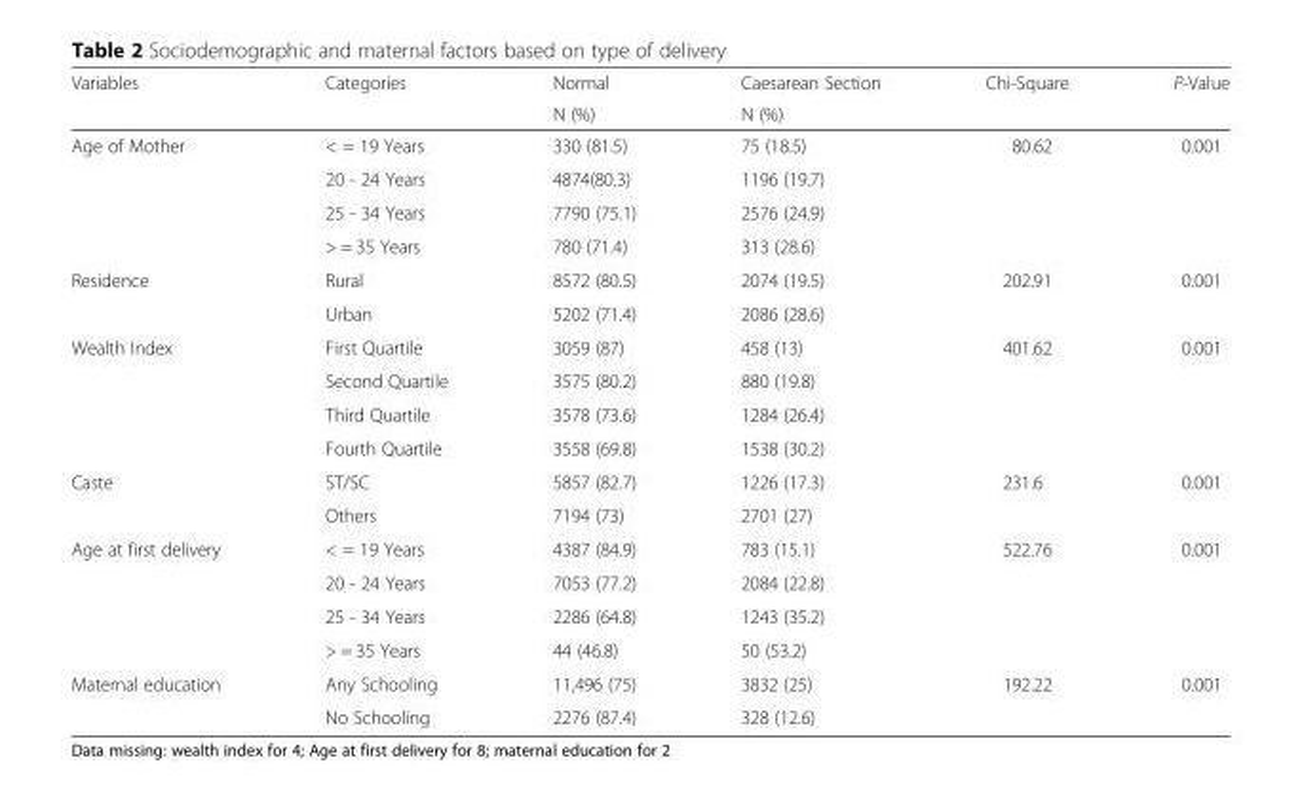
<table><thead><tr><td rowspan="2">Variables</td><td rowspan="2">Categories</td><td rowspan="2">Normal N (%)</td><td rowspan="2">Caesarean Section N (%)</td><td rowspan="2">Chi-Square</td><td rowspan="2">P-Value</td></tr><tr></tr></thead><tbody><tr><td rowspan="4">Age of Mother</td><td>&lt; = 19 Years</td><td>330 (81.5)</td><td>75 (18.5)</td><td rowspan="4">80.62</td><td rowspan="4">0.001</td></tr><tr><td>20 - 24 Years</td><td>4874(80.3)</td><td>1196 (19.7)</td></tr><tr><td>25 - 34 Years</td><td>7790 (75.1)</td><td>2576 (24.9)</td></tr><tr><td>&gt; = 35 Years</td><td>780 (71.4)</td><td>313 (28.6)</td></tr><tr><td rowspan="2">Residence</td><td>Rural</td><td>8572 (80.5)</td><td>2074 (19.5)</td><td rowspan="2">202.91</td><td rowspan="2">0.001</td></tr><tr><td>Urban</td><td>5202 (71.4)</td><td>2086 (28.6)</td></tr><tr><td rowspan="4">Wealth Index</td><td>First Quartile</td><td>3059 (87)</td><td>458 (13)</td><td rowspan="4">401.62</td><td rowspan="4">0.001</td></tr><tr><td>Second Quartile</td><td>3575 (80.2)</td><td>880 (19.8)</td></tr><tr><td>Third Quartile</td><td>3578 (73.6)</td><td>1284 (26.4)</td></tr><tr><td>Fourth Quartile</td><td>3558 (69.8)</td><td>1538 (30.2)</td></tr><tr><td rowspan="2">Caste</td><td>ST/SC</td><td>5857 (82.7)</td><td>1226 (17.3)</td><td rowspan="2">231.6</td><td rowspan="2">0.001</td></tr><tr><td>Others</td><td>7194 (73)</td><td>2701 (27)</td></tr><tr><td rowspan="4">Age at first delivery</td><td>&lt; = 19 Years</td><td>4387 (84.9)</td><td>783 (15.1)</td><td rowspan="4">522.76</td><td rowspan="4">0.001</td></tr><tr><td>20 - 24 Years</td><td>7053 (77.2)</td><td>2084 (22.8)</td></tr><tr><td>25 - 34 Years</td><td>2286 (64.8)</td><td>1243 (35.2)</td></tr><tr><td>&gt; = 35 Years</td><td>44 (46.8)</td><td>50 (53.2)</td></tr><tr><td rowspan="2">Maternal education</td><td>Any Schooling</td><td>11,496 (75)</td><td>3832 (25)</td><td rowspan="2">192.22</td><td rowspan="2">0.001</td></tr><tr><td>No Schooling</td><td>2276 (87.4)</td><td>328 (12.6)</td></tr></tbody></table>